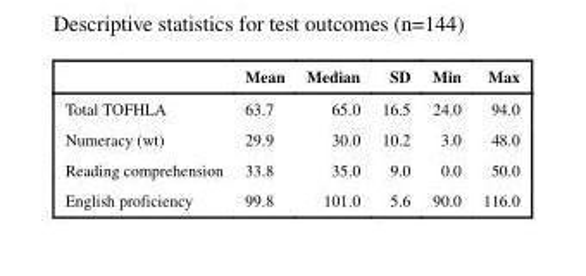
<table><thead><tr><td></td><td>Mean</td><td>Median</td><td>SD</td><td>Min</td><td>Max</td></tr></thead><tbody><tr><td>Total TOFHLA</td><td>63.7</td><td>65.0</td><td>16.5</td><td>24.0</td><td>94.0</td></tr><tr><td>Numeracy (wt)</td><td>29.9</td><td>30.0</td><td>10.2</td><td>3.0</td><td>48.0</td></tr><tr><td>Reading comprehension</td><td>33.8</td><td>35.0</td><td>9.0</td><td>0.0</td><td>50.0</td></tr><tr><td>English proficiency</td><td>99.8</td><td>101.0</td><td>5.6</td><td>90.0</td><td>116.0</td></tr></tbody></table>